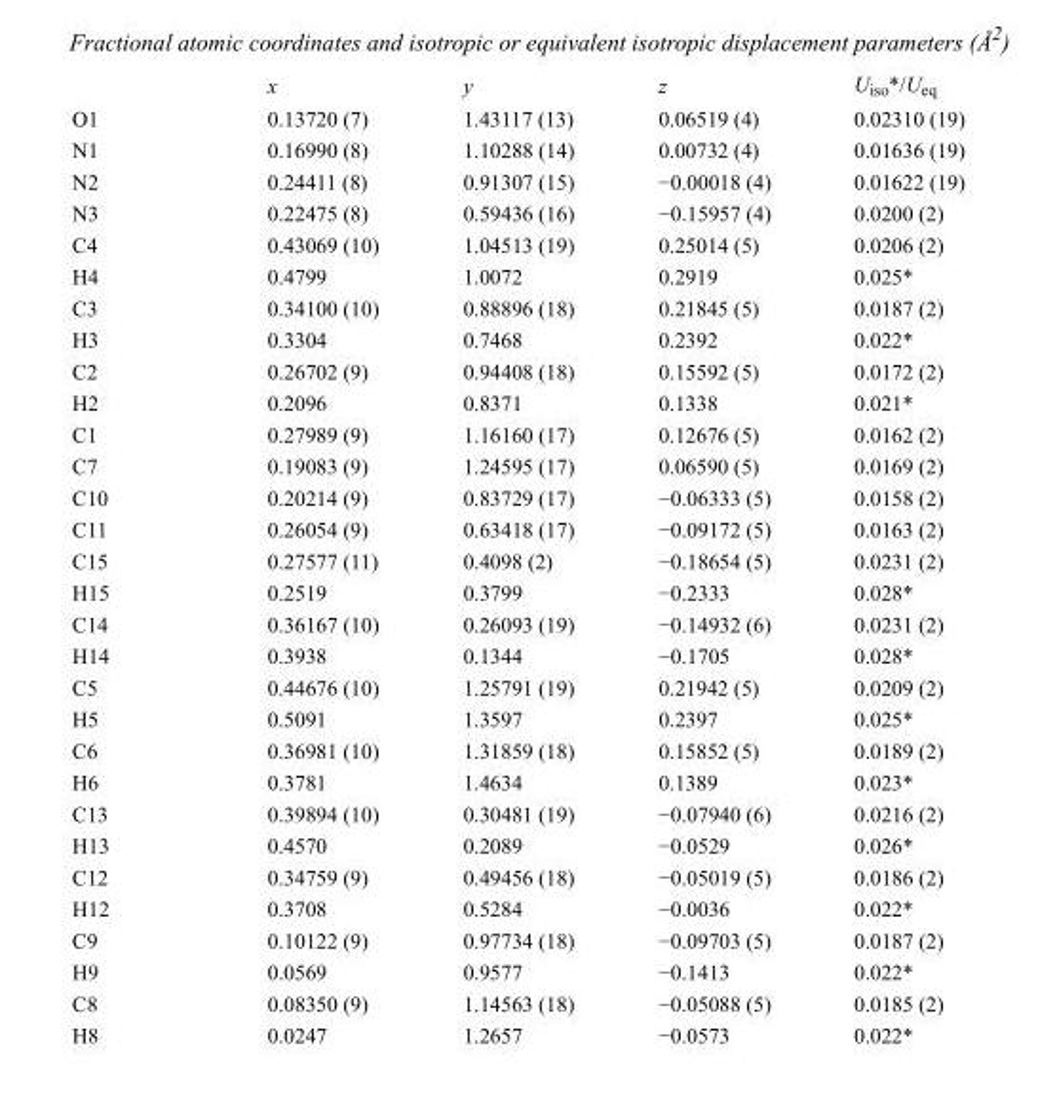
<table><thead><tr><td></td><td>x</td><td>y</td><td>z</td><td>U<sub>iso</sub>*/U<sub>eq</sub></td></tr></thead><tbody><tr><td>O1</td><td>0.13720 (7)</td><td>1.43117 (13)</td><td>0.06519 (4)</td><td>0.02310 (19)</td></tr><tr><td>N1</td><td>0.16990 (8)</td><td>1.10288 (14)</td><td>0.00732 (4)</td><td>0.01636 (19)</td></tr><tr><td>N2</td><td>0.24411 (8)</td><td>0.91307 (15)</td><td>−0.00018 (4)</td><td>0.01622 (19)</td></tr><tr><td>N3</td><td>0.22475 (8)</td><td>0.59436 (16)</td><td>−0.15957 (4)</td><td>0.0200 (2)</td></tr><tr><td>C4</td><td>0.43069 (10)</td><td>1.04513 (19)</td><td>0.25014 (5)</td><td>0.0206 (2)</td></tr><tr><td>H4</td><td>0.4799</td><td>1.0072</td><td>0.2919</td><td>0.025*</td></tr><tr><td>C3</td><td>0.34100 (10)</td><td>0.88896 (18)</td><td>0.21845 (5)</td><td>0.0187 (2)</td></tr><tr><td>H3</td><td>0.3304</td><td>0.7468</td><td>0.2392</td><td>0.022*</td></tr><tr><td>C2</td><td>0.26702 (9)</td><td>0.94408 (18)</td><td>0.15592 (5)</td><td>0.0172 (2)</td></tr><tr><td>H2</td><td>0.2096</td><td>0.8371</td><td>0.1338</td><td>0.021*</td></tr><tr><td>C1</td><td>0.27989 (9)</td><td>1.16160 (17)</td><td>0.12676 (5)</td><td>0.0162 (2)</td></tr><tr><td>C7</td><td>0.19083 (9)</td><td>1.24595 (17)</td><td>0.06590 (5)</td><td>0.0169 (2)</td></tr><tr><td>C10</td><td>0.20214 (9)</td><td>0.83729 (17)</td><td>−0.06333 (5)</td><td>0.0158 (2)</td></tr><tr><td>C11</td><td>0.26054 (9)</td><td>0.63418 (17)</td><td>−0.09172 (5)</td><td>0.0163 (2)</td></tr><tr><td>C15</td><td>0.27577 (11)</td><td>0.4098 (2)</td><td>−0.18654 (5)</td><td>0.0231 (2)</td></tr><tr><td>H15</td><td>0.2519</td><td>0.3799</td><td>−0.2333</td><td>0.028*</td></tr><tr><td>C14</td><td>0.36167 (10)</td><td>0.26093 (19)</td><td>−0.14932 (6)</td><td>0.0231 (2)</td></tr><tr><td>H14</td><td>0.3938</td><td>0.1344</td><td>−0.1705</td><td>0.028*</td></tr><tr><td>C5</td><td>0.44676 (10)</td><td>1.25791 (19)</td><td>0.21942 (5)</td><td>0.0209 (2)</td></tr><tr><td>H5</td><td>0.5091</td><td>1.3597</td><td>0.2397</td><td>0.025*</td></tr><tr><td>C6</td><td>0.36981 (10)</td><td>1.31859 (18)</td><td>0.15852 (5)</td><td>0.0189 (2)</td></tr><tr><td>H6</td><td>0.3781</td><td>1.4634</td><td>0.1389</td><td>0.023*</td></tr><tr><td>C13</td><td>0.39894 (10)</td><td>0.30481 (19)</td><td>−0.07940 (6)</td><td>0.0216 (2)</td></tr><tr><td>H13</td><td>0.4570</td><td>0.2089</td><td>−0.0529</td><td>0.026*</td></tr><tr><td>C12</td><td>0.34759 (9)</td><td>0.49456 (18)</td><td>−0.05019 (5)</td><td>0.0186 (2)</td></tr><tr><td>H12</td><td>0.3708</td><td>0.5284</td><td>−0.0036</td><td>0.022*</td></tr><tr><td>C9</td><td>0.10122 (9)</td><td>0.97734 (18)</td><td>−0.09703 (5)</td><td>0.0187 (2)</td></tr><tr><td>H9</td><td>0.0569</td><td>0.9577</td><td>−0.1413</td><td>0.022*</td></tr><tr><td>C8</td><td>0.08350 (9)</td><td>1.14563 (18)</td><td>−0.05088 (5)</td><td>0.0185 (2)</td></tr><tr><td>H8</td><td>0.0247</td><td>1.2657</td><td>−0.0573</td><td>0.022*</td></tr></tbody></table>